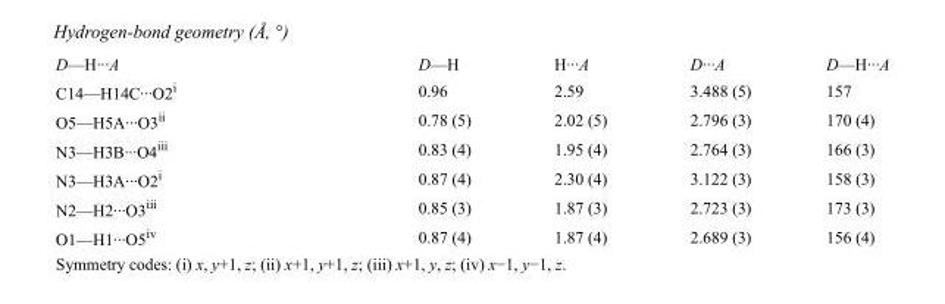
<table><tbody><tr><td>D—H···A</td><td>D—H</td><td>H···A</td><td>D···A</td><td>D—H···A</td></tr><tr><td>C14—H14C···O2<sup>i</sup></td><td>0.96</td><td>2.59</td><td>3.488 (5)</td><td>157</td></tr><tr><td>O5—H5A···O3<sup>ii</sup></td><td>0.78 (5)</td><td>2.02 (5)</td><td>2.796 (3)</td><td>170 (4)</td></tr><tr><td>N3—H3B···O4<sup>iii</sup></td><td>0.83 (4)</td><td>1.95 (4)</td><td>2.764 (3)</td><td>166 (3)</td></tr><tr><td>N3—H3A···O2<sup>i</sup></td><td>0.87 (4)</td><td>2.30 (4)</td><td>3.122 (3)</td><td>158 (3)</td></tr><tr><td>N2—H2···O3<sup>iii</sup></td><td>0.85 (3)</td><td>1.87 (3)</td><td>2.723 (3)</td><td>173 (3)</td></tr><tr><td>O1—H1···O5<sup>iv</sup></td><td>0.87 (4)</td><td>1.87 (4)</td><td>2.689 (3)</td><td>156 (4)</td></tr></tbody></table>